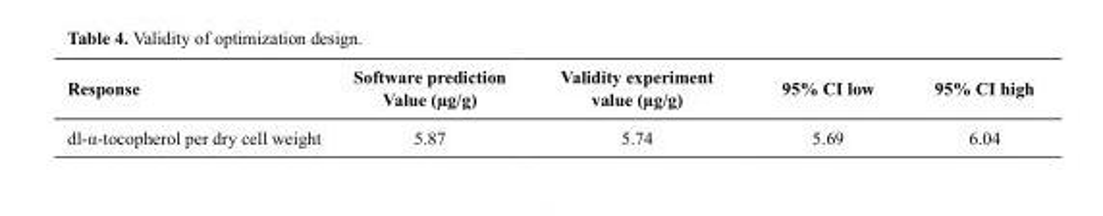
<table><thead><tr><td>Response</td><td>Software prediction Value (µg/g)</td><td>Validity experiment value (µg/g)</td><td>95% CI low</td><td>95% CI high</td></tr></thead><tbody><tr><td>dl-α-tocopherol per dry cell weight</td><td>5.87</td><td>5.74</td><td>5.69</td><td>6.04</td></tr></tbody></table>